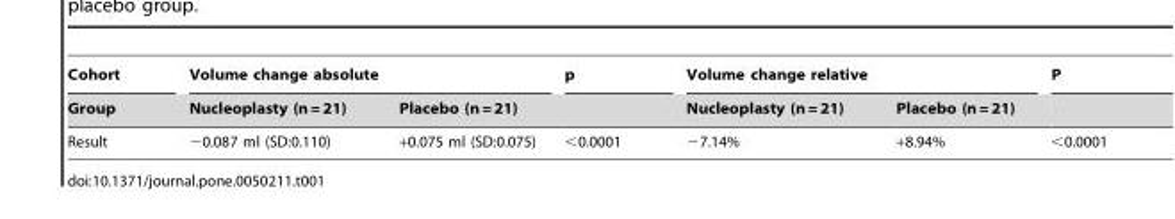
<table><thead><tr><td rowspan="2">Cohort Group</td><td colspan="2">Volume change absolute</td><td rowspan="2">p</td><td colspan="2">Volume change relative</td><td rowspan="2">P</td></tr><tr><td>Nucleoplasty (n = 21)</td><td>Placebo (n = 21)</td><td>Nucleoplasty (n = 21)</td><td>Placebo (n = 21)</td></tr></thead><tbody><tr><td>Result</td><td>−0.087 ml (SD:0.110)</td><td>+0.075 ml (SD:0.075)</td><td>&lt;0.0001</td><td>−7.14%</td><td>+8.94%</td><td>&lt;0.0001</td></tr></tbody></table>